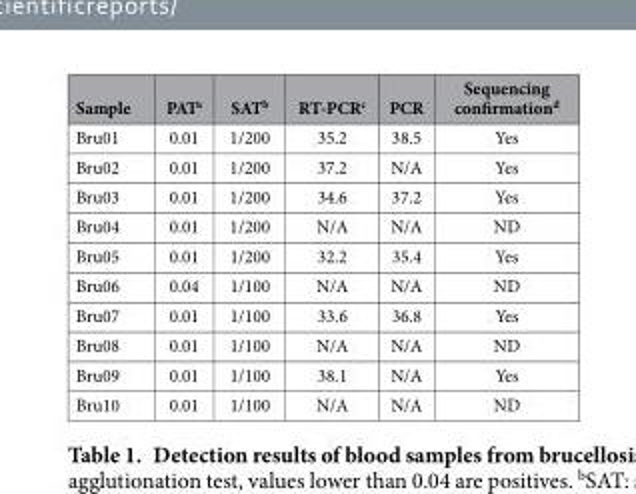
<table><thead><tr><td>Sample</td><td>PAT<sup>a</sup></td><td>SAT<sup>b</sup></td><td>RT-PCR<sup>c</sup></td><td>PCR</td><td>Sequencing confirmation<sup>d</sup></td></tr></thead><tbody><tr><td>Bru01</td><td>0.01</td><td>1/200</td><td>35.2</td><td>38.5</td><td>Yes</td></tr><tr><td>Bru02</td><td>0.01</td><td>1/200</td><td>37.2</td><td>N/A</td><td>Yes</td></tr><tr><td>Bru03</td><td>0.01</td><td>1/200</td><td>34.6</td><td>37.2</td><td>Yes</td></tr><tr><td>Bru04</td><td>0.01</td><td>1/200</td><td>N/A</td><td>N/A</td><td>ND</td></tr><tr><td>Bru05</td><td>0.01</td><td>1/200</td><td>32.2</td><td>35.4</td><td>Yes</td></tr><tr><td>Bru06</td><td>0.04</td><td>1/100</td><td>N/A</td><td>N/A</td><td>ND</td></tr><tr><td>Bru07</td><td>0.01</td><td>1/100</td><td>33.6</td><td>36.8</td><td>Yes</td></tr><tr><td>Bru08</td><td>0.01</td><td>1/100</td><td>N/A</td><td>N/A</td><td>ND</td></tr><tr><td>Bru09</td><td>0.01</td><td>1/100</td><td>38.1</td><td>N/A</td><td>Yes</td></tr><tr><td>Bru10</td><td>0.01</td><td>1/100</td><td>N/A</td><td>N/A</td><td>ND</td></tr></tbody></table>